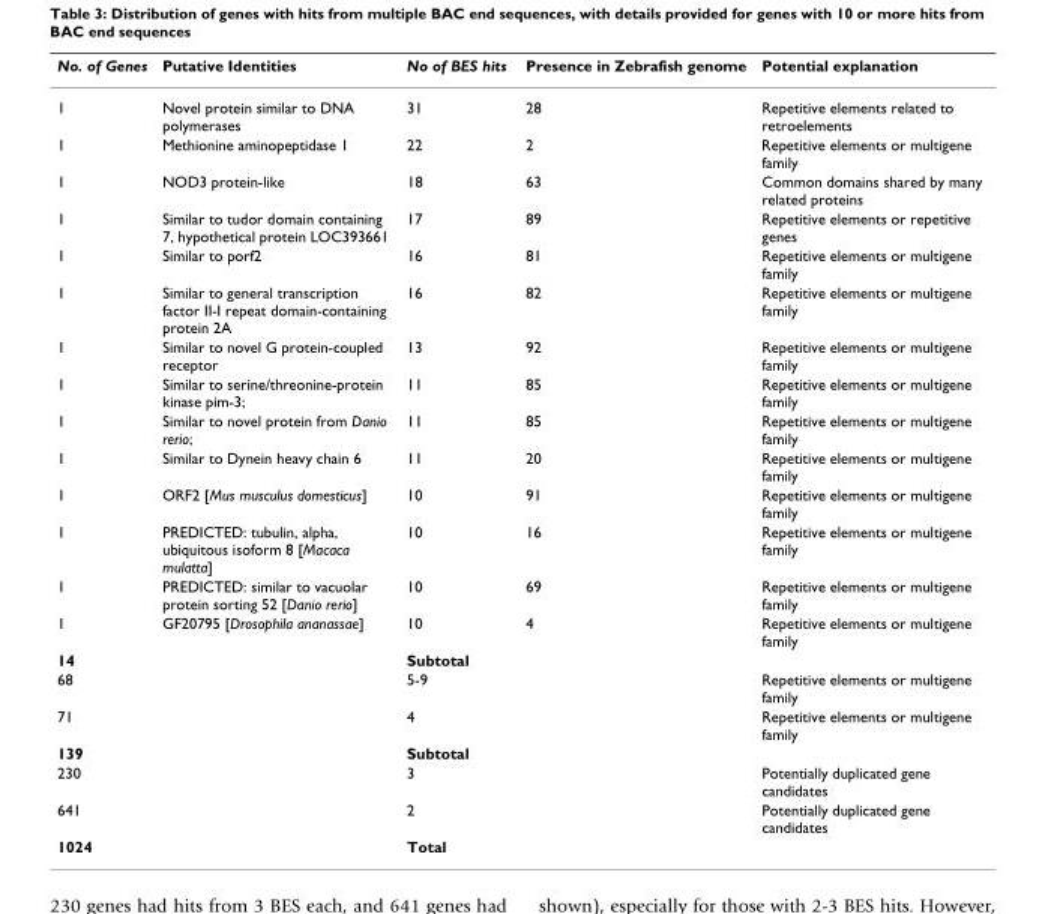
<table><thead><tr><td>No. of Genes</td><td>Putative Identities</td><td>No of BES hits</td><td>Presence in Zebrafish genome</td><td>Potential explanation</td></tr></thead><tbody><tr><td>1</td><td>Novel protein similar to DNA polymerases</td><td>31</td><td>28</td><td>Repetitive elements related to retroelements</td></tr><tr><td>1</td><td>Methionine aminopeptidase 1</td><td>22</td><td>2</td><td>Repetitive elements or multigene family</td></tr><tr><td>1</td><td>NOD3 protein-like</td><td>18</td><td>63</td><td>Common domains shared by many related proteins</td></tr><tr><td>1</td><td>Similar to tudor domain containing 7, hypothetical protein LOC393661</td><td>17</td><td>89</td><td>Repetitive elements or repetitive genes</td></tr><tr><td>1</td><td>Similar to porf2</td><td>16</td><td>81</td><td>Repetitive elements or multigene family</td></tr><tr><td>1</td><td>Similar to general transcription factor II-I repeat domain-containing protein 2A</td><td>16</td><td>82</td><td>Repetitive elements or multigene family</td></tr><tr><td>1</td><td>Similar to novel G protein-coupled receptor</td><td>13</td><td>92</td><td>Repetitive elements or multigene family</td></tr><tr><td>1</td><td>Similar to serine/threonine-protein kinase pim-3;</td><td>11</td><td>85</td><td>Repetitive elements or multigene family</td></tr><tr><td>1</td><td>Similar to novel protein from Danio rerio;</td><td>11</td><td>85</td><td>Repetitive elements or multigene family</td></tr><tr><td>1</td><td>Similar to Dynein heavy chain 6</td><td>11</td><td>20</td><td>Repetitive elements or multigene family</td></tr><tr><td>1</td><td>ORF2 [Mus musculus domesticus]</td><td>10</td><td>91</td><td>Repetitive elements or multigene family</td></tr><tr><td>1</td><td>PREDICTED: tubulin, alpha, ubiquitous isoform 8 [Macaca mulatta]</td><td>10</td><td>16</td><td>Repetitive elements or multigene family</td></tr><tr><td>1</td><td>PREDICTED: similar to vacuolar protein sorting 52 [Danio rerio]</td><td>10</td><td>69</td><td>Repetitive elements or multigene family</td></tr><tr><td>1</td><td>GF20795 [Drosophila ananassae]</td><td>10</td><td>4</td><td>Repetitive elements or multigene family</td></tr><tr><td>14</td><td></td><td>Subtotal</td><td></td><td></td></tr><tr><td>68</td><td></td><td>5-9</td><td></td><td>Repetitive elements or multigene family</td></tr><tr><td>71</td><td></td><td>4</td><td></td><td>Repetitive elements or multigene family</td></tr><tr><td>139</td><td></td><td>Subtotal</td><td></td><td></td></tr><tr><td>230</td><td></td><td>3</td><td></td><td>Potentially duplicated gene candidates</td></tr><tr><td>641</td><td></td><td>2</td><td></td><td>Potentially duplicated gene candidates</td></tr><tr><td>1024</td><td></td><td>Total</td><td></td><td></td></tr></tbody></table>